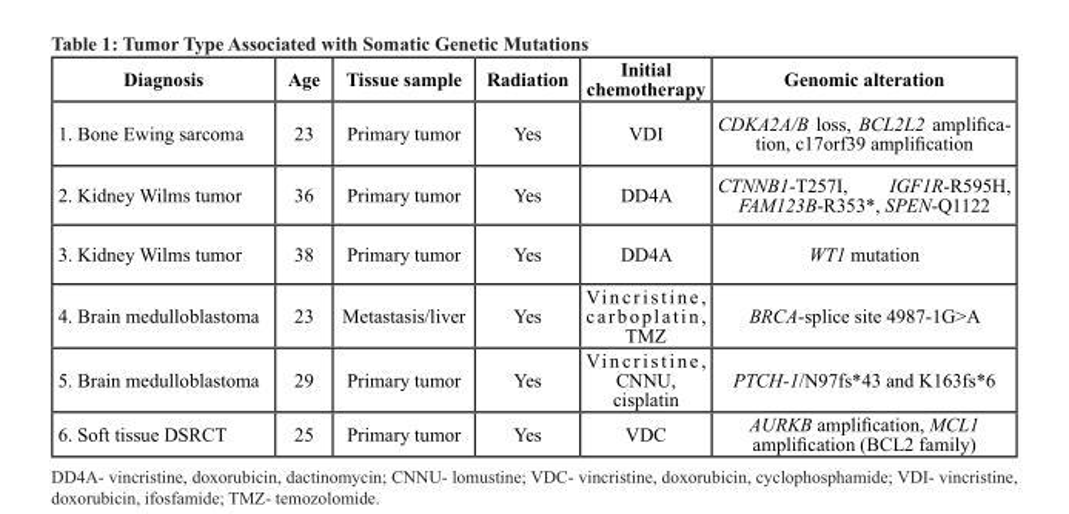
<table><thead><tr><td>Diagnosis</td><td>Age</td><td>Tissue sample</td><td>Radiation</td><td>Initial chemotherapy</td><td>Genomic alteration</td></tr></thead><tbody><tr><td>1. Bone Ewing sarcoma</td><td>23</td><td>Primary tumor</td><td>Yes</td><td>VDI</td><td>CDKA2A/B loss, BCL2L2 amplifica- tion, c17orf39 amplification</td></tr><tr><td>2. Kidney Wilms tumor</td><td>36</td><td>Primary tumor</td><td>Yes</td><td>DD4A</td><td>CTNNB1-T257I, IGF1R-R595H, FAM123B-R353*, SPEN-Q1122</td></tr><tr><td>3. Kidney Wilms tumor</td><td>38</td><td>Primary tumor</td><td>Yes</td><td>DD4A</td><td>WT1 mutation</td></tr><tr><td>4. Brain medulloblastoma</td><td>23</td><td>Metastasis/liver</td><td>Yes</td><td>Vincristine, carboplatin, TMZ</td><td>BRCA-splice site 4987-1G&gt;A</td></tr><tr><td>5. Brain medulloblastoma</td><td>29</td><td>Primary tumor</td><td>Yes</td><td>Vincristine, CNNU, cisplatin</td><td>PTCH-1/N97fs*43 and K163fs*6</td></tr><tr><td>6. Soft tissue DSRCT</td><td>25</td><td>Primary tumor</td><td>Yes</td><td>VDC</td><td>AURKB amplification, MCL1 amplification (BCL2 family)</td></tr></tbody></table>